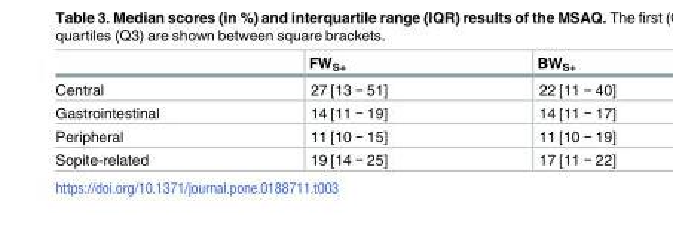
<table><thead><tr><td></td><td>FW<sub>S+</sub></td><td>BW<sub>S+</sub></td></tr></thead><tbody><tr><td>Central</td><td>27 [13 − 51]</td><td>22 [11 − 40]</td></tr><tr><td>Gastrointestinal</td><td>14 [11 − 19]</td><td>14 [11 − 17]</td></tr><tr><td>Peripheral</td><td>11 [10 − 15]</td><td>11 [10 − 19]</td></tr><tr><td>Sopite-related</td><td>19 [14 − 25]</td><td>17 [11 − 22]</td></tr></tbody></table>